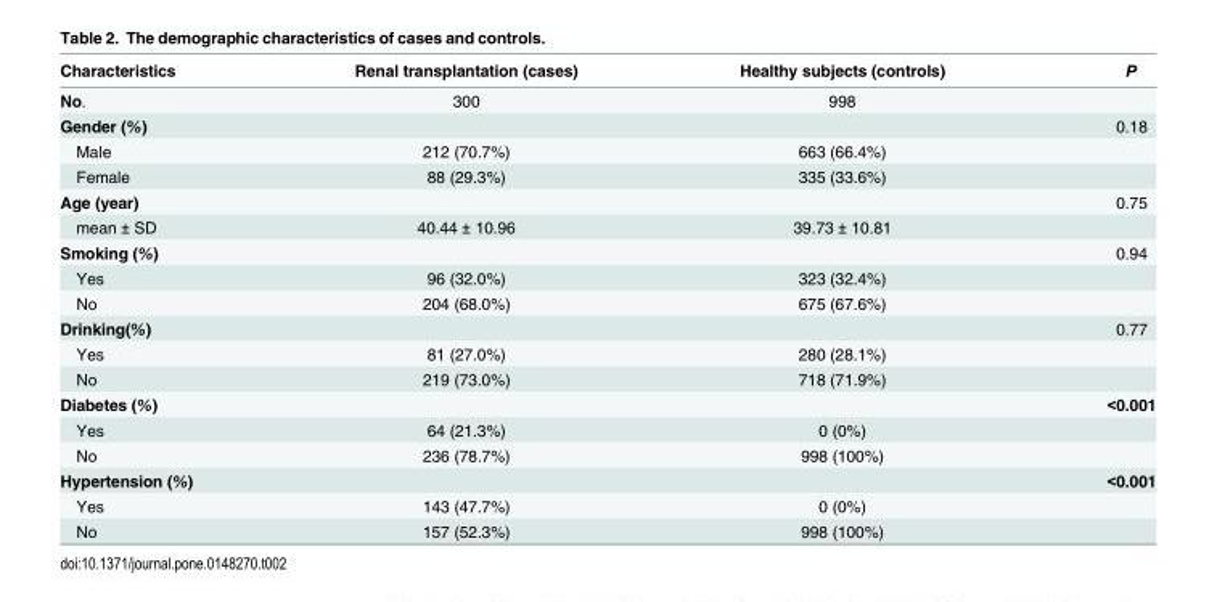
<table><thead><tr><td>Characteristics</td><td>Renal transplantation (cases)</td><td>Healthy subjects (controls)</td><td>P</td></tr></thead><tbody><tr><td>No.</td><td>300</td><td>998</td><td></td></tr><tr><td>Gender (%)</td><td></td><td></td><td>0.18</td></tr><tr><td>Male</td><td>212 (70.7%)</td><td>663 (66.4%)</td><td></td></tr><tr><td>Female</td><td>88 (29.3%)</td><td>335 (33.6%)</td><td></td></tr><tr><td>Age (year)</td><td></td><td></td><td>0.75</td></tr><tr><td>mean ± SD</td><td>40.44 ± 10.96</td><td>39.73 ± 10.81</td><td></td></tr><tr><td>Smoking (%)</td><td></td><td></td><td>0.94</td></tr><tr><td>Yes</td><td>96 (32.0%)</td><td>323 (32.4%)</td><td></td></tr><tr><td>No</td><td>204 (68.0%)</td><td>675 (67.6%)</td><td></td></tr><tr><td>Drinking(%)</td><td></td><td></td><td>0.77</td></tr><tr><td>Yes</td><td>81 (27.0%)</td><td>280 (28.1%)</td><td></td></tr><tr><td>No</td><td>219 (73.0%)</td><td>718 (71.9%)</td><td></td></tr><tr><td>Diabetes (%)</td><td></td><td></td><td>&lt;0.001</td></tr><tr><td>Yes</td><td>64 (21.3%)</td><td>0 (0%)</td><td></td></tr><tr><td>No</td><td>236 (78.7%)</td><td>998 (100%)</td><td></td></tr><tr><td>Hypertension (%)</td><td></td><td></td><td>&lt;0.001</td></tr><tr><td>Yes</td><td>143 (47.7%)</td><td>0 (0%)</td><td></td></tr><tr><td>No</td><td>157 (52.3%)</td><td>998 (100%)</td><td></td></tr></tbody></table>